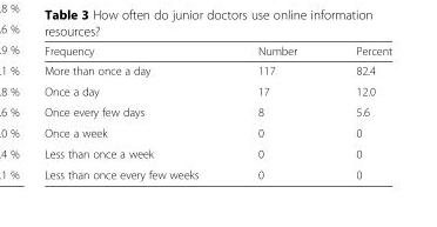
<table><thead><tr><td>Frequency</td><td>Number</td><td>Percent</td></tr></thead><tbody><tr><td>More than once a day</td><td>117</td><td>82.4</td></tr><tr><td>Once a day</td><td>17</td><td>12.0</td></tr><tr><td>Once every few days</td><td>8</td><td>5.6</td></tr><tr><td>Once a week</td><td>0</td><td>0</td></tr><tr><td>Less than once a week</td><td>0</td><td>0</td></tr><tr><td>Less than once every few weeks</td><td>0</td><td>0</td></tr></tbody></table>